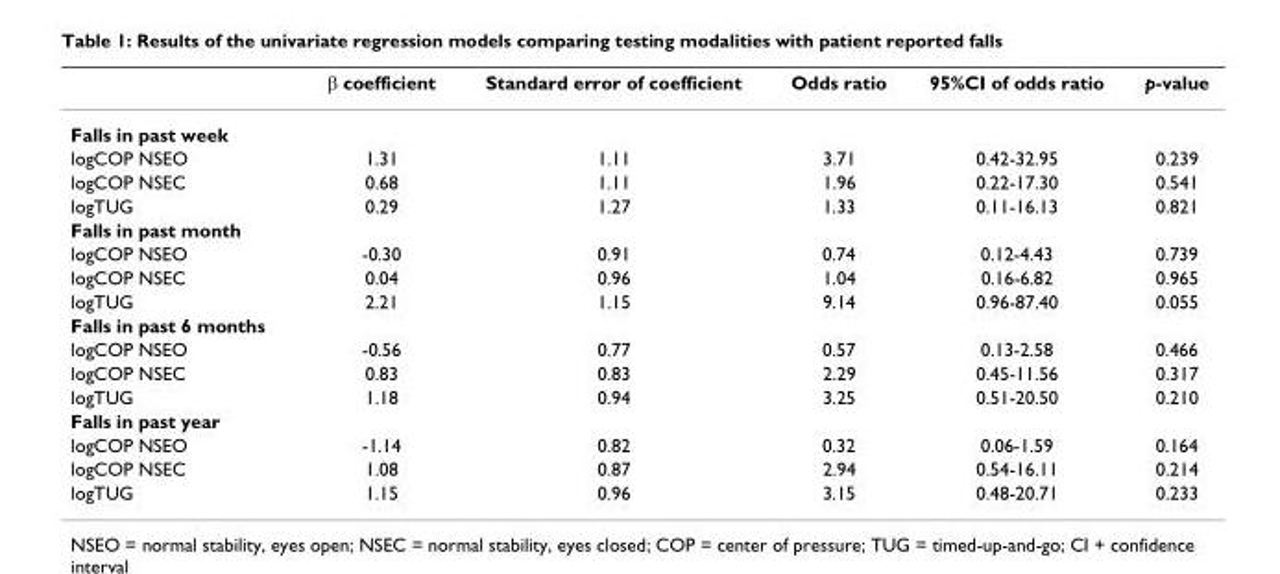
<table><thead><tr><td></td><td>β coefficient</td><td>Standard error of coefficient</td><td>Odds ratio</td><td>95%CI of odds ratio</td><td>p-value</td></tr></thead><tbody><tr><td colspan="6">Falls in past week</td></tr><tr><td>logCOP NSEO</td><td>1.31</td><td>1.11</td><td>3.71</td><td>0.42-32.95</td><td>0.239</td></tr><tr><td>logCOP NSEC</td><td>0.68</td><td>1.11</td><td>1.96</td><td>0.22-17.30</td><td>0.541</td></tr><tr><td>logTUG</td><td>0.29</td><td>1.27</td><td>1.33</td><td>0.11-16.13</td><td>0.821</td></tr><tr><td colspan="6">Falls in past month</td></tr><tr><td>logCOP NSEO</td><td>-0.30</td><td>0.91</td><td>0.74</td><td>0.12-4.43</td><td>0.739</td></tr><tr><td>logCOP NSEC</td><td>0.04</td><td>0.96</td><td>1.04</td><td>0.16-6.82</td><td>0.965</td></tr><tr><td>logTUG</td><td>2.21</td><td>1.15</td><td>9.14</td><td>0.96-87.40</td><td>0.055</td></tr><tr><td colspan="6">Falls in past 6 months</td></tr><tr><td>logCOP NSEO</td><td>-0.56</td><td>0.77</td><td>0.57</td><td>0.13-2.58</td><td>0.466</td></tr><tr><td>logCOP NSEC</td><td>0.83</td><td>0.83</td><td>2.29</td><td>0.45-11.56</td><td>0.317</td></tr><tr><td>logTUG</td><td>1.18</td><td>0.94</td><td>3.25</td><td>0.51-20.50</td><td>0.210</td></tr><tr><td colspan="6">Falls in past year</td></tr><tr><td>logCOP NSEO</td><td>-1.14</td><td>0.82</td><td>0.32</td><td>0.06-1.59</td><td>0.164</td></tr><tr><td>logCOP NSEC</td><td>1.08</td><td>0.87</td><td>2.94</td><td>0.54-16.11</td><td>0.214</td></tr><tr><td>logTUG</td><td>1.15</td><td>0.96</td><td>3.15</td><td>0.48-20.71</td><td>0.233</td></tr></tbody></table>